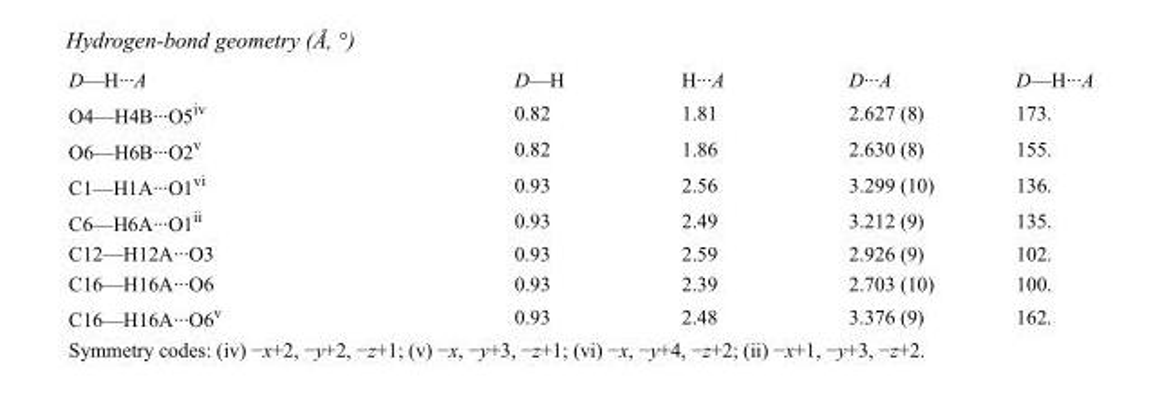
<table><tbody><tr><td>D—H···A</td><td>D—H</td><td>H···A</td><td>D···A</td><td>D—H···A</td></tr><tr><td>O4—H4B···O5<sup>iv</sup></td><td>0.82</td><td>1.81</td><td>2.627 (8)</td><td>173.</td></tr><tr><td>O6—H6B···O2<sup>v</sup></td><td>0.82</td><td>1.86</td><td>2.630 (8)</td><td>155.</td></tr><tr><td>C1—H1A···O1<sup>vi</sup></td><td>0.93</td><td>2.56</td><td>3.299 (10)</td><td>136.</td></tr><tr><td>C6—H6A···O1<sup>ii</sup></td><td>0.93</td><td>2.49</td><td>3.212 (9)</td><td>135.</td></tr><tr><td>C12—H12A···O3</td><td>0.93</td><td>2.59</td><td>2.926 (9)</td><td>102.</td></tr><tr><td>C16—H16A···O6</td><td>0.93</td><td>2.39</td><td>2.703 (10)</td><td>100.</td></tr><tr><td>C16—H16A···O6<sup>v</sup></td><td>0.93</td><td>2.48</td><td>3.376 (9)</td><td>162.</td></tr></tbody></table>